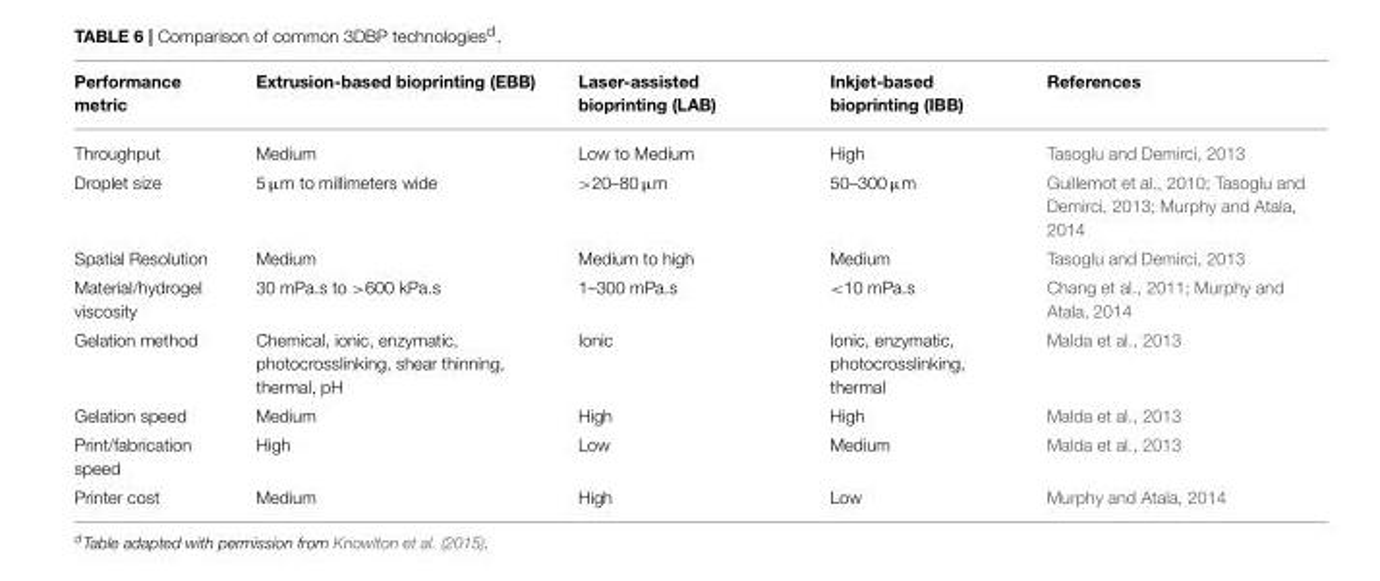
<table><thead><tr><td>Performance metric</td><td>Extrusion-based bioprinting (EBB)</td><td>Laser-assisted bioprinting (LAB)</td><td>Inkjet-based bioprinting (IBB)</td><td>References</td></tr></thead><tbody><tr><td>Throughput</td><td>Medium</td><td>Low to Medium</td><td>High</td><td>Tasoglu and Demirci, 2013</td></tr><tr><td>Droplet size</td><td>5 µm to millimeters wide</td><td>&gt;20–80 µm</td><td>50–300 µm</td><td>Guillemot et al., 2010; Tasoglu and Demirci, 2013; Murphy and Atala, 2014</td></tr><tr><td>Spatial Resolution</td><td>Medium</td><td>Medium to high</td><td>Medium</td><td>Tasoglu and Demirci, 2013</td></tr><tr><td>Material/hydrogel viscosity</td><td>30 mPa.s to &gt;600 kPa.s</td><td>1–300 mPa.s</td><td>&lt;10 mPa.s</td><td>Chang et al., 2011; Murphy and Atala, 2014</td></tr><tr><td>Gelation method</td><td>Chemical, ionic, enzymatic, photocrosslinking, shear thinning, thermal, pH</td><td>Ionic</td><td>Ionic, enzymatic, photocrosslinking, thermal</td><td>Malda et al., 2013</td></tr><tr><td>Gelation speed</td><td>Medium</td><td>High</td><td>High</td><td>Malda et al., 2013</td></tr><tr><td>Print/fabrication speed</td><td>High</td><td>Low</td><td>Medium</td><td>Malda et al., 2013</td></tr><tr><td>Printer cost</td><td>Medium</td><td>High</td><td>Low</td><td>Murphy and Atala, 2014</td></tr></tbody></table>